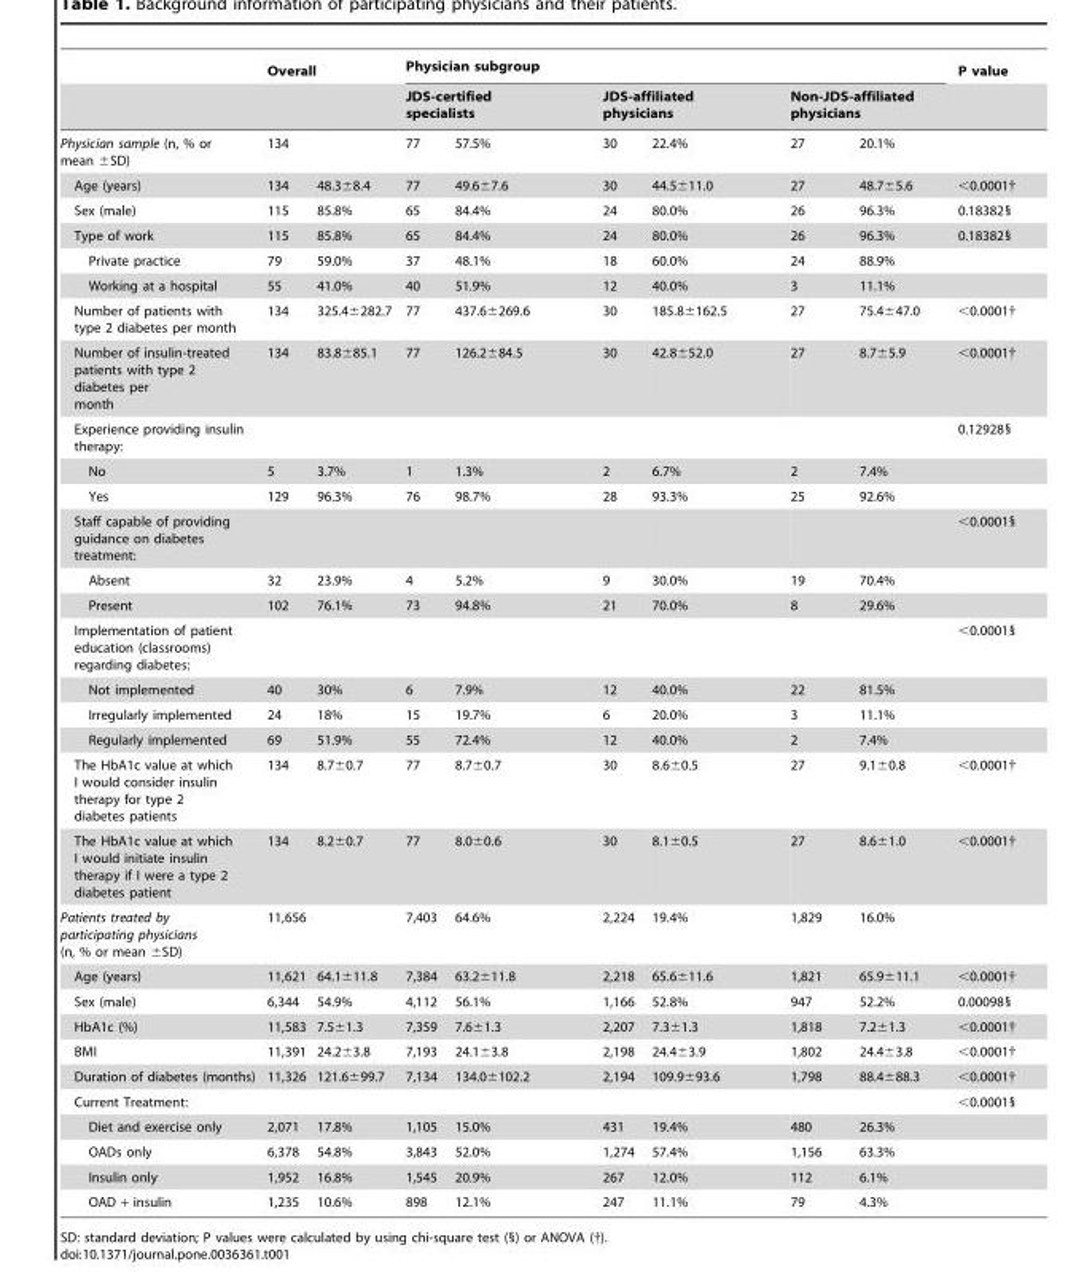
<table><thead><tr><td rowspan="3">Physician sample (n, % or mean ±SD)</td><td colspan="2">Overall</td><td colspan="6">Physician subgroup</td><td rowspan="3">P value</td></tr><tr><td rowspan="2">134</td><td rowspan="2"></td><td colspan="2">JDS-certified specialists</td><td colspan="2">JDS-affiliated physicians</td><td colspan="2">Non-JDS-affiliated physicians</td></tr><tr><td>77</td><td>57.5%</td><td>30</td><td>22.4%</td><td>27</td><td>20.1%</td></tr></thead><tbody><tr><td>Age (years)</td><td>134</td><td>48.3±8.4</td><td>77</td><td>49.6±7.6</td><td>30</td><td>44.5±11.0</td><td>27</td><td>48.7±5.6</td><td>&lt;0.0001†</td></tr><tr><td>Sex (male)</td><td>115</td><td>85.8%</td><td>65</td><td>84.4%</td><td>24</td><td>80.0%</td><td>26</td><td>96.3%</td><td>0.18382§</td></tr><tr><td>Type of work</td><td>115</td><td>85.8%</td><td>65</td><td>84.4%</td><td>24</td><td>80.0%</td><td>26</td><td>96.3%</td><td>0.18382§</td></tr><tr><td>Private practice</td><td>79</td><td>59.0%</td><td>37</td><td>48.1%</td><td>18</td><td>60.0%</td><td>24</td><td>88.9%</td><td></td></tr><tr><td>Working at a hospital</td><td>55</td><td>41.0%</td><td>40</td><td>51.9%</td><td>12</td><td>40.0%</td><td>3</td><td>11.1%</td><td></td></tr><tr><td>Number of patients with type 2 diabetes per month</td><td>134</td><td>325.4±282.7</td><td>77</td><td>437.6±269.6</td><td>30</td><td>185.8±162.5</td><td>27</td><td>75.4±47.0</td><td>&lt;0.0001†</td></tr><tr><td>Number of insulin-treated patients with type 2 diabetes per month</td><td>134</td><td>83.8±85.1</td><td>77</td><td>126.2±84.5</td><td>30</td><td>42.8±52.0</td><td>27</td><td>8.7±5.9</td><td>&lt;0.0001†</td></tr><tr><td>Experience providing insulin therapy:</td><td></td><td></td><td></td><td></td><td></td><td></td><td></td><td></td><td>0.12928§</td></tr><tr><td>No</td><td>5</td><td>3.7%</td><td>1</td><td>1.3%</td><td>2</td><td>6.7%</td><td>2</td><td>7.4%</td><td></td></tr><tr><td>Yes</td><td>129</td><td>96.3%</td><td>76</td><td>98.7%</td><td>28</td><td>93.3%</td><td>25</td><td>92.6%</td><td></td></tr><tr><td>Staff capable of providing guidance on diabetes treatment:</td><td></td><td></td><td></td><td></td><td></td><td></td><td></td><td></td><td>&lt;0.0001§</td></tr><tr><td>Absent</td><td>32</td><td>23.9%</td><td>4</td><td>5.2%</td><td>9</td><td>30.0%</td><td>19</td><td>70.4%</td><td></td></tr><tr><td>Present</td><td>102</td><td>76.1%</td><td>73</td><td>94.8%</td><td>21</td><td>70.0%</td><td>8</td><td>29.6%</td><td></td></tr><tr><td>Implementation of patient education (classrooms) regarding diabetes:</td><td></td><td></td><td></td><td></td><td></td><td></td><td></td><td></td><td>&lt;0.0001§</td></tr><tr><td>Not implemented</td><td>40</td><td>30%</td><td>6</td><td>7.9%</td><td>12</td><td>40.0%</td><td>22</td><td>81.5%</td><td></td></tr><tr><td>Irregularly implemented</td><td>24</td><td>18%</td><td>15</td><td>19.7%</td><td>6</td><td>20.0%</td><td>3</td><td>11.1%</td><td></td></tr><tr><td>Regularly implemented</td><td>69</td><td>51.9%</td><td>55</td><td>72.4%</td><td>12</td><td>40.0%</td><td>2</td><td>7.4%</td><td></td></tr><tr><td>The HbA1c value at which I would consider insulin therapy for type 2 diabetes patients</td><td>134</td><td>8.7±0.7</td><td>77</td><td>8.7±0.7</td><td>30</td><td>8.6±0.5</td><td>27</td><td>9.1±0.8</td><td>&lt;0.0001†</td></tr><tr><td>The HbA1c value at which I would initiate insulin therapy if I were a type 2 diabetes patient</td><td>134</td><td>8.2±0.7</td><td>77</td><td>8.0±0.6</td><td>30</td><td>8.1±0.5</td><td>27</td><td>8.6±1.0</td><td>&lt;0.0001†</td></tr><tr><td>Patients treated by participating physicians (n, % or mean ±SD)</td><td>11,656</td><td></td><td>7,403</td><td>64.6%</td><td>2,224</td><td>19.4%</td><td>1,829</td><td>16.0%</td><td></td></tr><tr><td>Age (years)</td><td>11,621</td><td>64.1±11.8</td><td>7,384</td><td>63.2±11.8</td><td>2,218</td><td>65.6±11.6</td><td>1,821</td><td>65.9±11.1</td><td>&lt;0.0001†</td></tr><tr><td>Sex (male)</td><td>6,344</td><td>54.9%</td><td>4,112</td><td>56.1%</td><td>1,166</td><td>52.8%</td><td>947</td><td>52.2%</td><td>0.00098§</td></tr><tr><td>HbA1c (%)</td><td>11,583</td><td>7.5±1.3</td><td>7,359</td><td>7.6±1.3</td><td>2,207</td><td>7.3±1.3</td><td>1,818</td><td>7.2±1.3</td><td>&lt;0.0001†</td></tr><tr><td>BMI</td><td>11,391</td><td>24.2±3.8</td><td>7,193</td><td>24.1±3.8</td><td>2,198</td><td>24.4±3.9</td><td>1,802</td><td>24.4±3.8</td><td>&lt;0.0001†</td></tr><tr><td>Duration of diabetes (months)</td><td>11,326</td><td>121.6±99.7</td><td>7,134</td><td>134.0±102.2</td><td>2,194</td><td>109.9±93.6</td><td>1,798</td><td>88.4±88.3</td><td>&lt;0.0001†</td></tr><tr><td>Current Treatment:</td><td></td><td></td><td></td><td></td><td></td><td></td><td></td><td></td><td>&lt;0.0001§</td></tr><tr><td>Diet and exercise only</td><td>2,071</td><td>17.8%</td><td>1,105</td><td>15.0%</td><td>431</td><td>19.4%</td><td>480</td><td>26.3%</td><td></td></tr><tr><td>OADs only</td><td>6,378</td><td>54.8%</td><td>3,843</td><td>52.0%</td><td>1,274</td><td>57.4%</td><td>1,156</td><td>63.3%</td><td></td></tr><tr><td>Insulin only</td><td>1,952</td><td>16.8%</td><td>1,545</td><td>20.9%</td><td>267</td><td>12.0%</td><td>112</td><td>6.1%</td><td></td></tr><tr><td>OAD + insulin</td><td>1,235</td><td>10.6%</td><td>898</td><td>12.1%</td><td>247</td><td>11.1%</td><td>79</td><td>4.3%</td><td></td></tr></tbody></table>